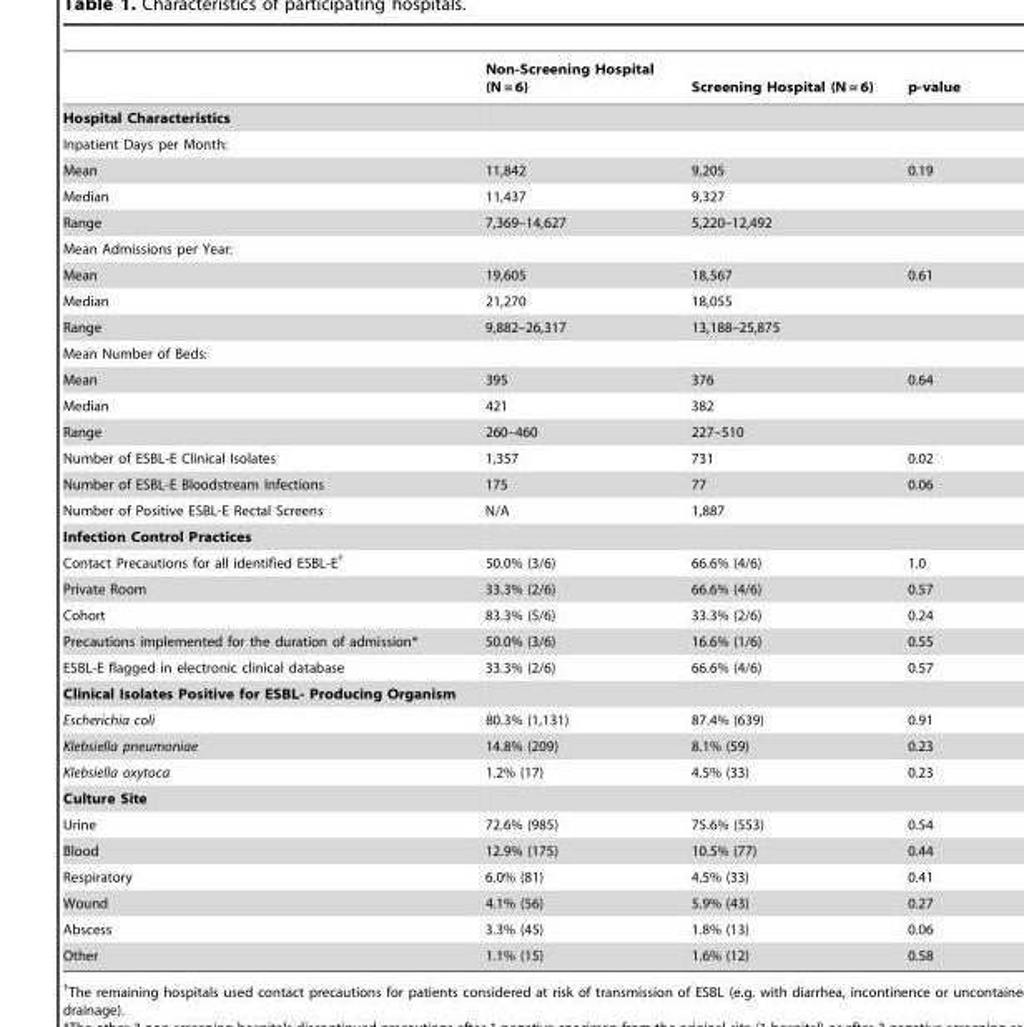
<table><thead><tr><td></td><td>Non-Screening Hospital (N = 6)</td><td>Screening Hospital (N = 6)</td><td>p-value</td></tr></thead><tbody><tr><td colspan="4">Hospital Characteristics</td></tr><tr><td colspan="4">Inpatient Days per Month:</td></tr><tr><td>Mean</td><td>11,842</td><td>9,205</td><td>0.19</td></tr><tr><td>Median</td><td>11,437</td><td>9,327</td><td></td></tr><tr><td>Range</td><td>7,369–14,627</td><td>5,220–12,492</td><td></td></tr><tr><td colspan="4">Mean Admissions per Year:</td></tr><tr><td>Mean</td><td>19,605</td><td>18,567</td><td>0.61</td></tr><tr><td>Median</td><td>21,270</td><td>18,055</td><td></td></tr><tr><td>Range</td><td>9,882–26,317</td><td>13,188–25,875</td><td></td></tr><tr><td colspan="4">Mean Number of Beds:</td></tr><tr><td>Mean</td><td>395</td><td>376</td><td>0.64</td></tr><tr><td>Median</td><td>421</td><td>382</td><td></td></tr><tr><td>Range</td><td>260–460</td><td>227–510</td><td></td></tr><tr><td>Number of ESBL-E Clinical Isolates</td><td>1,357</td><td>731</td><td>0.02</td></tr><tr><td>Number of ESBL-E Bloodstream Infections</td><td>175</td><td>77</td><td>0.06</td></tr><tr><td>Number of Positive ESBL-E Rectal Screens</td><td>N/A</td><td>1,887</td><td></td></tr><tr><td colspan="4">Infection Control Practices</td></tr><tr><td>Contact Precautions for all identified ESBL-E†</td><td>50.0% (3/6)</td><td>66.6% (4/6)</td><td>1.0</td></tr><tr><td>Private Room</td><td>33.3% (2/6)</td><td>66.6% (4/6)</td><td>0.57</td></tr><tr><td>Cohort</td><td>83.3% (5/6)</td><td>33.3% (2/6)</td><td>0.24</td></tr><tr><td>Precautions implemented for the duration of admission*</td><td>50.0% (3/6)</td><td>16.6% (1/6)</td><td>0.55</td></tr><tr><td>ESBL-E flagged in electronic clinical database</td><td>33.3% (2/6)</td><td>66.6% (4/6)</td><td>0.57</td></tr><tr><td colspan="4">Clinical Isolates Positive for ESBL- Producing Organism</td></tr><tr><td>Escherichia coli</td><td>80.3% (1,131)</td><td>87.4% (639)</td><td>0.91</td></tr><tr><td>Klebsiella pneumoniae</td><td>14.8% (209)</td><td>8.1% (59)</td><td>0.23</td></tr><tr><td>Klebsiella oxytoca</td><td>1.2% (17)</td><td>4.5% (33)</td><td>0.23</td></tr><tr><td colspan="4">Culture Site</td></tr><tr><td>Urine</td><td>72.6% (985)</td><td>75.6% (553)</td><td>0.54</td></tr><tr><td>Blood</td><td>12.9% (175)</td><td>10.5% (77)</td><td>0.44</td></tr><tr><td>Respiratory</td><td>6.0% (81)</td><td>4.5% (33)</td><td>0.41</td></tr><tr><td>Wound</td><td>4.1% (56)</td><td>5.9% (43)</td><td>0.27</td></tr><tr><td>Abscess</td><td>3.3% (45)</td><td>1.8% (13)</td><td>0.06</td></tr><tr><td>Other</td><td>1.1% (15)</td><td>1.6% (12)</td><td>0.58</td></tr></tbody></table>